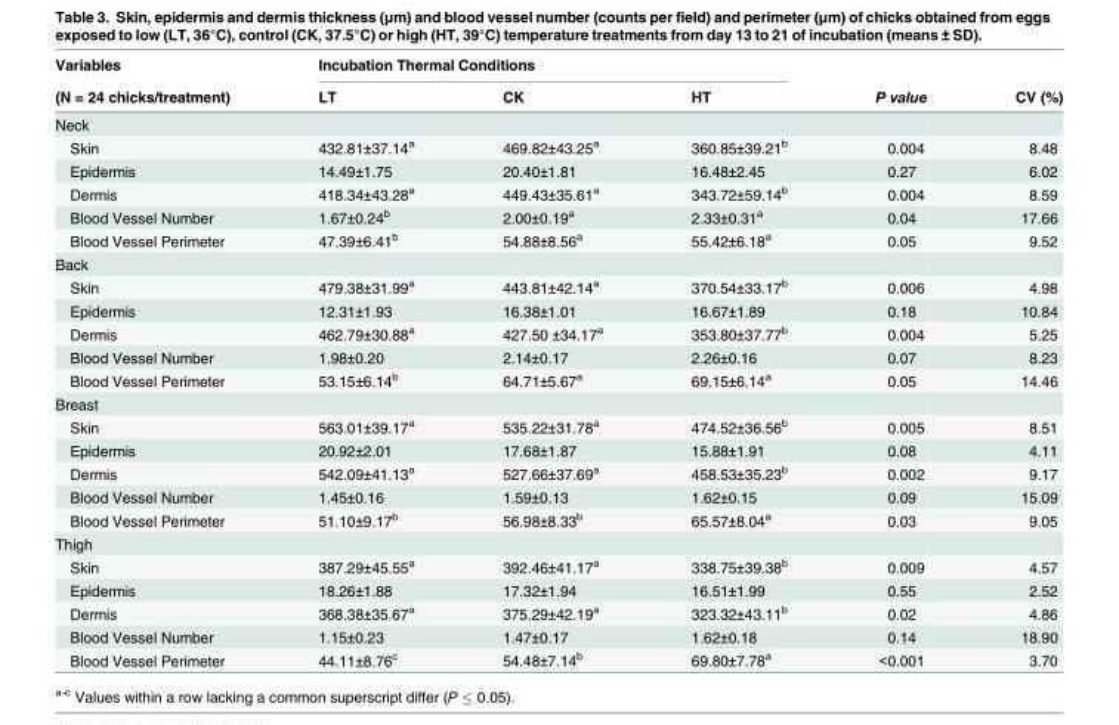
<table><thead><tr><td rowspan="2">Variables (N = 24 chicks/treatment)</td><td colspan="3">Incubation Thermal Conditions</td><td rowspan="2">P value</td><td rowspan="2">CV (%)</td></tr><tr><td>LT</td><td>CK</td><td>HT</td></tr></thead><tbody><tr><td colspan="6">Neck</td></tr><tr><td>Skin</td><td>432.81±37.14<sup>a</sup></td><td>469.82±43.25<sup>a</sup></td><td>360.85±39.21<sup>b</sup></td><td>0.004</td><td>8.48</td></tr><tr><td>Epidermis</td><td>14.49±1.75</td><td>20.40±1.81</td><td>16.48±2.45</td><td>0.27</td><td>6.02</td></tr><tr><td>Dermis</td><td>418.34±43.28<sup>a</sup></td><td>449.43±35.61<sup>a</sup></td><td>343.72±59.14<sup>b</sup></td><td>0.004</td><td>8.59</td></tr><tr><td>Blood Vessel Number</td><td>1.67±0.24<sup>b</sup></td><td>2.00±0.19<sup>a</sup></td><td>2.33±0.31<sup>a</sup></td><td>0.04</td><td>17.66</td></tr><tr><td>Blood Vessel Perimeter</td><td>47.39±6.41<sup>b</sup></td><td>54.88±8.56<sup>a</sup></td><td>55.42±6.18<sup>a</sup></td><td>0.05</td><td>9.52</td></tr><tr><td colspan="6">Back</td></tr><tr><td>Skin</td><td>479.38±31.99<sup>a</sup></td><td>443.81±42.14<sup>a</sup></td><td>370.54±33.17<sup>b</sup></td><td>0.006</td><td>4.98</td></tr><tr><td>Epidermis</td><td>12.31±1.93</td><td>16.38±1.01</td><td>16.67±1.89</td><td>0.18</td><td>10.84</td></tr><tr><td>Dermis</td><td>462.79±30.88<sup>a</sup></td><td>427.50 ±34.17<sup>a</sup></td><td>353.80±37.77<sup>b</sup></td><td>0.004</td><td>5.25</td></tr><tr><td>Blood Vessel Number</td><td>1.98±0.20</td><td>2.14±0.17</td><td>2.26±0.16</td><td>0.07</td><td>8.23</td></tr><tr><td>Blood Vessel Perimeter</td><td>53.15±6.14<sup>b</sup></td><td>64.71±5.67<sup>a</sup></td><td>69.15±6.14<sup>a</sup></td><td>0.05</td><td>14.46</td></tr><tr><td colspan="6">Breast</td></tr><tr><td>Skin</td><td>563.01±39.17<sup>a</sup></td><td>535.22±31.78<sup>a</sup></td><td>474.52±36.56<sup>b</sup></td><td>0.005</td><td>8.51</td></tr><tr><td>Epidermis</td><td>20.92±2.01</td><td>17.68±1.87</td><td>15.88±1.91</td><td>0.08</td><td>4.11</td></tr><tr><td>Dermis</td><td>542.09±41.13<sup>a</sup></td><td>527.66±37.69<sup>a</sup></td><td>458.53±35.23<sup>b</sup></td><td>0.002</td><td>9.17</td></tr><tr><td>Blood Vessel Number</td><td>1.45±0.16</td><td>1.59±0.13</td><td>1.62±0.15</td><td>0.09</td><td>15.09</td></tr><tr><td>Blood Vessel Perimeter</td><td>51.10±9.17<sup>b</sup></td><td>56.98±8.33<sup>b</sup></td><td>65.57±8.04<sup>a</sup></td><td>0.03</td><td>9.05</td></tr><tr><td colspan="6">Thigh</td></tr><tr><td>Skin</td><td>387.29±45.55<sup>a</sup></td><td>392.46±41.17<sup>a</sup></td><td>338.75±39.38<sup>b</sup></td><td>0.009</td><td>4.57</td></tr><tr><td>Epidermis</td><td>18.26±1.88</td><td>17.32±1.94</td><td>16.51±1.99</td><td>0.55</td><td>2.52</td></tr><tr><td>Dermis</td><td>368.38±35.67<sup>a</sup></td><td>375.29±42.19<sup>a</sup></td><td>323.32±43.11<sup>b</sup></td><td>0.02</td><td>4.86</td></tr><tr><td>Blood Vessel Number</td><td>1.15±0.23</td><td>1.47±0.17</td><td>1.62±0.18</td><td>0.14</td><td>18.90</td></tr><tr><td>Blood Vessel Perimeter</td><td>44.11±8.76<sup>c</sup></td><td>54.48±7.14<sup>b</sup></td><td>69.80±7.78<sup>a</sup></td><td>&lt;0.001</td><td>3.70</td></tr></tbody></table>